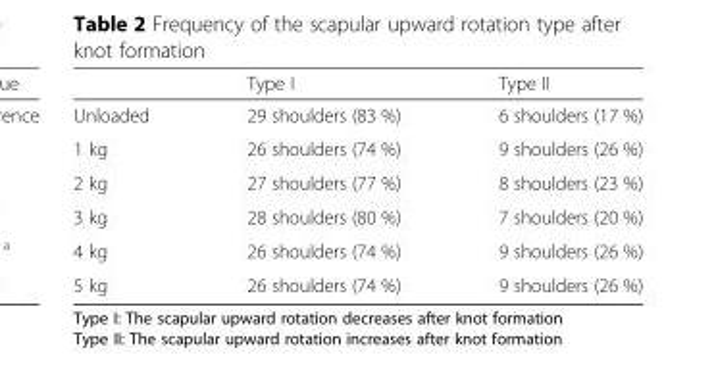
<table><thead><tr><td></td><td>Type I</td><td>Type II</td></tr></thead><tbody><tr><td>Unloaded</td><td>29 shoulders (83 %)</td><td>6 shoulders (17 %)</td></tr><tr><td>1 kg</td><td>26 shoulders (74 %)</td><td>9 shoulders (26 %)</td></tr><tr><td>2 kg</td><td>27 shoulders (77 %)</td><td>8 shoulders (23 %)</td></tr><tr><td>3 kg</td><td>28 shoulders (80 %)</td><td>7 shoulders (20 %)</td></tr><tr><td>4 kg</td><td>26 shoulders (74 %)</td><td>9 shoulders (26 %)</td></tr><tr><td>5 kg</td><td>26 shoulders (74 %)</td><td>9 shoulders (26 %)</td></tr></tbody></table>